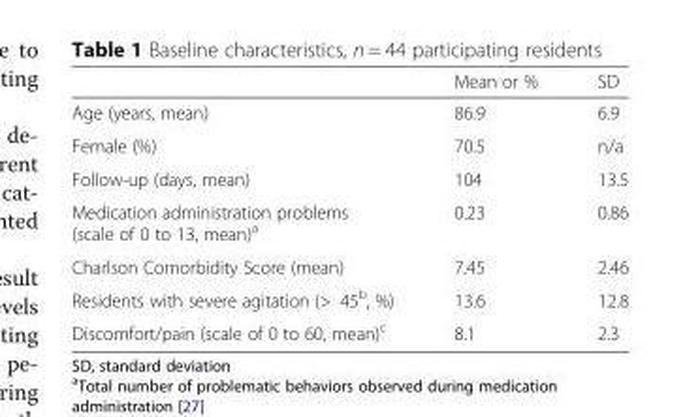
<table><thead><tr><td></td><td>Mean or %</td><td>SD</td></tr></thead><tbody><tr><td>Age (years, mean)</td><td>86.9</td><td>6.9</td></tr><tr><td>Female (%)</td><td>70.5</td><td>n/a</td></tr><tr><td>Follow-up (days, mean)</td><td>104</td><td>13.5</td></tr><tr><td>Medication administration problems (scale of 0 to 13, mean)<sup>a</sup></td><td>0.23</td><td>0.86</td></tr><tr><td>Charlson Comorbidity Score (mean)</td><td>7.45</td><td>2.46</td></tr><tr><td>Residents with severe agitation (&gt; 45<sup>b</sup>, %)</td><td>13.6</td><td>12.8</td></tr><tr><td>Discomfort/pain (scale of 0 to 60, mean)<sup>c</sup></td><td>8.1</td><td>2.3</td></tr></tbody></table>